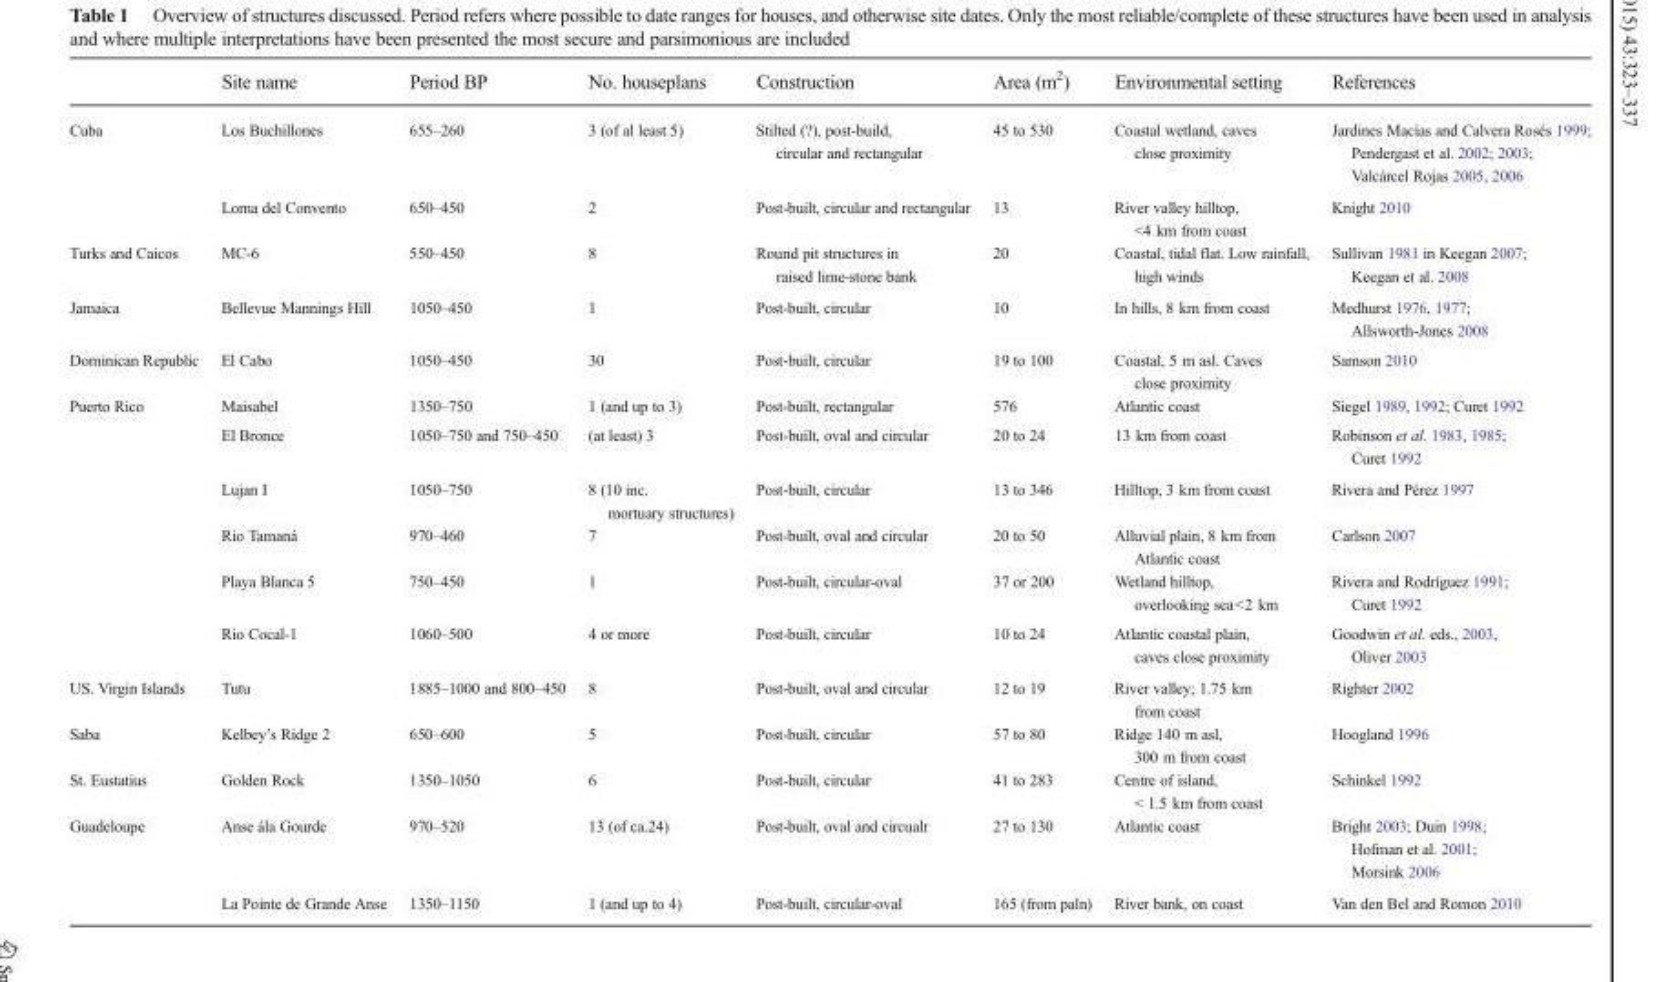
<table><thead><tr><td></td><td>Site name</td><td>Period BP</td><td>No. houseplans</td><td>Construction</td><td>Area (m<sup>2</sup>)</td><td>Environmental setting</td><td>References</td></tr></thead><tbody><tr><td rowspan="2">Cuba</td><td>Los Buchillones</td><td>655–260</td><td>3 (of al least 5)</td><td>Stilted (?), post-build, circular and rectangular</td><td>45 to 530</td><td>Coastal wetland, caves close proximity</td><td>Jardines Macías and Calvera Rosés 1999; Pendergast et al. 2002; 2003; Valcárcel Rojas 2005, 2006</td></tr><tr><td>Loma del Convento</td><td>650–450</td><td>2</td><td>Post-built, circular and rectangular</td><td>13</td><td>River valley hilltop, &lt;4 km from coast</td><td>Knight 2010</td></tr><tr><td>Turks and Caicos</td><td>MC-6</td><td>550–450</td><td>8</td><td>Round pit structures in raised lime-stone bank</td><td>20</td><td>Coastal, tidal flat. Low rainfall, high winds</td><td>Sullivan 1981 in Keegan 2007; Keegan et al. 2008</td></tr><tr><td>Jamaica</td><td>Bellevue Mannings Hill</td><td>1050–450</td><td>1</td><td>Post-built, circular</td><td>10</td><td>In hills, 8 km from coast</td><td>Medhurst 1976, 1977; Allsworth-Jones 2008</td></tr><tr><td>Dominican Republic</td><td>El Cabo</td><td>1050–450</td><td>30</td><td>Post-built, circular</td><td>19 to 100</td><td>Coastal, 5 m asl. Caves close proximity</td><td>Samson 2010</td></tr><tr><td rowspan="6">Puerto Rico</td><td>Maisabel</td><td>1350–750</td><td>1 (and up to 3)</td><td>Post-built, rectangular</td><td>576</td><td>Atlantic coast</td><td>Siegel 1989, 1992; Curet 1992</td></tr><tr><td>El Bronce</td><td>1050–750 and 750–450</td><td>(at least) 3</td><td>Post-built, oval and circular</td><td>20 to 24</td><td>13 km from coast</td><td>Robinson et al. 1983, 1985; Curet 1992</td></tr><tr><td>Lujan I</td><td>1050–750</td><td>8 (10 inc. mortuary structures)</td><td>Post-built, circular</td><td>13 to 346</td><td>Hilltop, 3 km from coast</td><td>Rivera and Pérez 1997</td></tr><tr><td>Rio Tamaná</td><td>970–460</td><td>7</td><td>Post-built, oval and circular</td><td>20 to 50</td><td>Alluvial plain, 8 km from Atlantic coast</td><td>Carlson 2007</td></tr><tr><td>Playa Blanca 5</td><td>750–450</td><td>1</td><td>Post-built, circular-oval</td><td>37 or 200</td><td>Wetland hilltop, overlooking sea&lt;2 km</td><td>Rivera and Rodríguez 1991; Curet 1992</td></tr><tr><td>Rio Cocal-1</td><td>1060–500</td><td>4 or more</td><td>Post-built, circular</td><td>10 to 24</td><td>Atlantic coastal plain, caves close proximity</td><td>Goodwin et al. eds., 2003, Oliver 2003</td></tr><tr><td>US. Virgin Islands</td><td>Tutu</td><td>1885–1000 and 800–450</td><td>8</td><td>Post-built, oval and circular</td><td>12 to 19</td><td>River valley; 1.75 km from coast</td><td>Righter 2002</td></tr><tr><td>Saba</td><td>Kelbey’s Ridge 2</td><td>650–600</td><td>5</td><td>Post-built, circular</td><td>57 to 80</td><td>Ridge 140 m asl, 300 m from coast</td><td>Hoogland 1996</td></tr><tr><td>St. Eustatius</td><td>Golden Rock</td><td>1350–1050</td><td>6</td><td>Post-built, circular</td><td>41 to 283</td><td>Centre of island, &lt; 1.5 km from coast</td><td>Schinkel 1992</td></tr><tr><td rowspan="2">Guadeloupe</td><td>Anse ála Gourde</td><td>970–520</td><td>13 (of ca.24)</td><td>Post-built, oval and circualr</td><td>27 to 130</td><td>Atlantic coast</td><td>Bright 2003; Duin 1998; Hofman et al. 2001; Morsink 2006</td></tr><tr><td>La Pointe de Grande Anse</td><td>1350–1150</td><td>1 (and up to 4)</td><td>Post-built, circular-oval</td><td>165 (from paln)</td><td>River bank, on coast</td><td>Van den Bel and Romon 2010</td></tr></tbody></table>